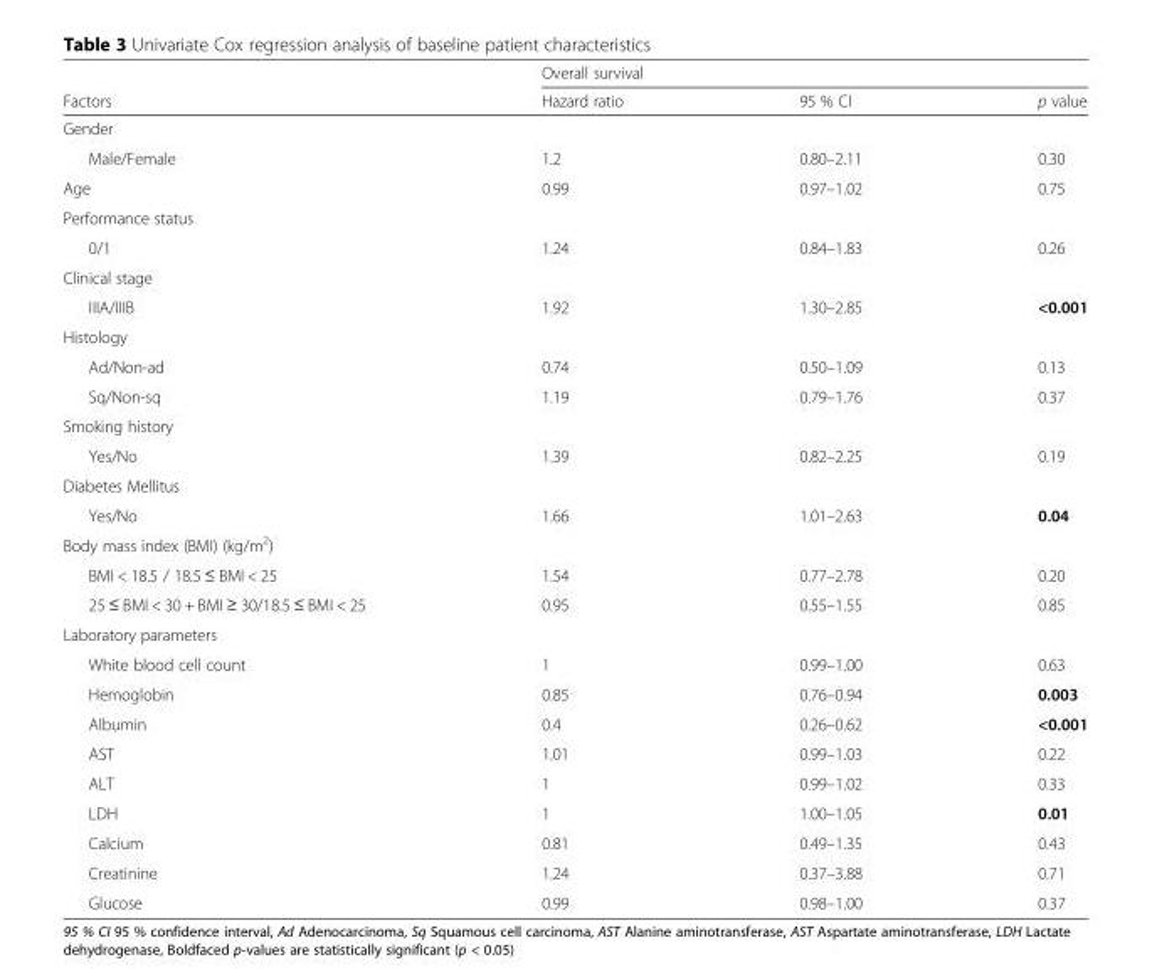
<table><thead><tr><td rowspan="2">Factors</td><td colspan="3">Overall survival</td></tr><tr><td>Hazard ratio</td><td>95 % CI</td><td>p value</td></tr></thead><tbody><tr><td colspan="4">Gender</td></tr><tr><td>Male/Female</td><td>1.2</td><td>0.80–2.11</td><td>0.30</td></tr><tr><td>Age</td><td>0.99</td><td>0.97–1.02</td><td>0.75</td></tr><tr><td colspan="4">Performance status</td></tr><tr><td>0/1</td><td>1.24</td><td>0.84–1.83</td><td>0.26</td></tr><tr><td colspan="4">Clinical stage</td></tr><tr><td>IIIA/IIIB</td><td>1.92</td><td>1.30–2.85</td><td>&lt;0.001</td></tr><tr><td colspan="4">Histology</td></tr><tr><td>Ad/Non-ad</td><td>0.74</td><td>0.50–1.09</td><td>0.13</td></tr><tr><td>Sq/Non-sq</td><td>1.19</td><td>0.79–1.76</td><td>0.37</td></tr><tr><td colspan="4">Smoking history</td></tr><tr><td>Yes/No</td><td>1.39</td><td>0.82–2.25</td><td>0.19</td></tr><tr><td colspan="4">Diabetes Mellitus</td></tr><tr><td>Yes/No</td><td>1.66</td><td>1.01–2.63</td><td>0.04</td></tr><tr><td colspan="4">Body mass index (BMI) (kg/m<sup>2</sup>)</td></tr><tr><td>BMI &lt; 18.5 / 18.5 ≤ BMI &lt; 25</td><td>1.54</td><td>0.77–2.78</td><td>0.20</td></tr><tr><td>25 ≤ BMI &lt; 30 + BMI ≥ 30/18.5 ≤ BMI &lt; 25</td><td>0.95</td><td>0.55–1.55</td><td>0.85</td></tr><tr><td colspan="4">Laboratory parameters</td></tr><tr><td>White blood cell count</td><td>1</td><td>0.99–1.00</td><td>0.63</td></tr><tr><td>Hemoglobin</td><td>0.85</td><td>0.76–0.94</td><td>0.003</td></tr><tr><td>Albumin</td><td>0.4</td><td>0.26–0.62</td><td>&lt;0.001</td></tr><tr><td>AST</td><td>1.01</td><td>0.99–1.03</td><td>0.22</td></tr><tr><td>ALT</td><td>1</td><td>0.99–1.02</td><td>0.33</td></tr><tr><td>LDH</td><td>1</td><td>1.00–1.05</td><td>0.01</td></tr><tr><td>Calcium</td><td>0.81</td><td>0.49–1.35</td><td>0.43</td></tr><tr><td>Creatinine</td><td>1.24</td><td>0.37–3.88</td><td>0.71</td></tr><tr><td>Glucose</td><td>0.99</td><td>0.98–1.00</td><td>0.37</td></tr></tbody></table>